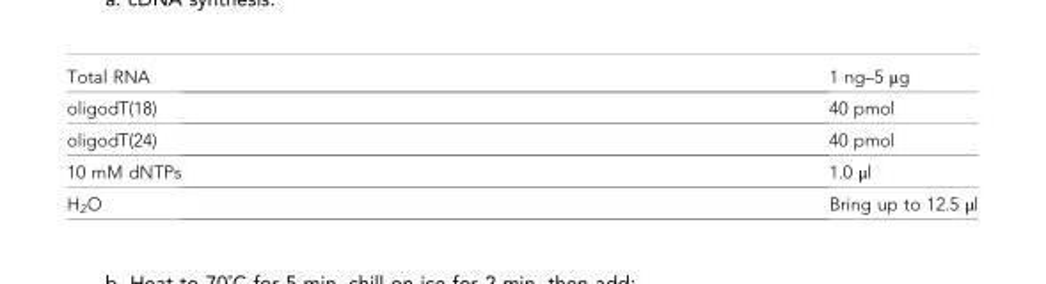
<table><tbody><tr><td>Total RNA</td><td>1 ng–5 μg</td></tr><tr><td>oligodT(18)</td><td>40 pmol</td></tr><tr><td>oligodT(24)</td><td>40 pmol</td></tr><tr><td>10 mM dNTPs</td><td>1.0 μl</td></tr><tr><td>H<sub>2</sub>O</td><td>Bring up to 12.5 μl</td></tr></tbody></table>